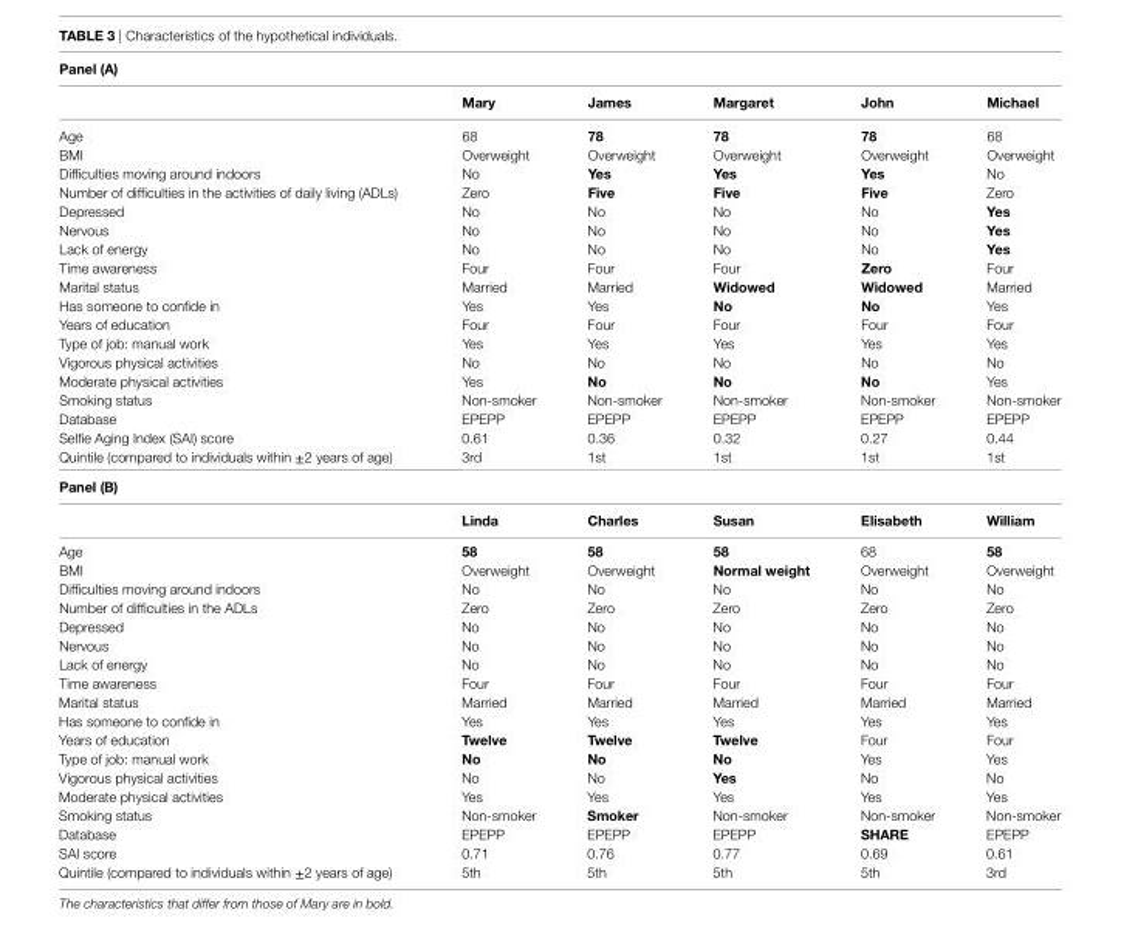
<table><thead><tr><td colspan="6">Panel (a)</td></tr><tr><td></td><td>Mary</td><td>James</td><td>Margaret</td><td>John</td><td>Michael</td></tr></thead><tbody><tr><td>Age</td><td>68</td><td>78</td><td>78</td><td>78</td><td>68</td></tr><tr><td>BMI</td><td>Overweight</td><td>Overweight</td><td>Overweight</td><td>Overweight</td><td>Overweight</td></tr><tr><td>Difficulties moving around indoors</td><td>No</td><td>Yes</td><td>Yes</td><td>Yes</td><td>No</td></tr><tr><td>Number of difficulties in the activities of daily living (ADLs)</td><td>Zero</td><td>Five</td><td>Five</td><td>Five</td><td>Zero</td></tr><tr><td>Depressed</td><td>No</td><td>No</td><td>No</td><td>No</td><td>Yes</td></tr><tr><td>Nervous</td><td>No</td><td>No</td><td>No</td><td>No</td><td>Yes</td></tr><tr><td>Lack of energy</td><td>No</td><td>No</td><td>No</td><td>No</td><td>Yes</td></tr><tr><td>Time awareness</td><td>Four</td><td>Four</td><td>Four</td><td>Zero</td><td>Four</td></tr><tr><td>Marital status</td><td>Married</td><td>Married</td><td>Widowed</td><td>Widowed</td><td>Married</td></tr><tr><td>Has someone to confide in</td><td>Yes</td><td>Yes</td><td>no</td><td>no</td><td>Yes</td></tr><tr><td>Years of education</td><td>Four</td><td>Four</td><td>Four</td><td>Four</td><td>Four</td></tr><tr><td>Type of job: manual work</td><td>Yes</td><td>Yes</td><td>Yes</td><td>Yes</td><td>Yes</td></tr><tr><td>Vigorous physical activities</td><td>No</td><td>No</td><td>No</td><td>No</td><td>No</td></tr><tr><td>Moderate physical activities</td><td>Yes</td><td>no</td><td>no</td><td>no</td><td>Yes</td></tr><tr><td>Smoking status</td><td>Non-smoker</td><td>Non-smoker</td><td>Non-smoker</td><td>Non-smoker</td><td>Non-smoker</td></tr><tr><td>Database</td><td>EPEPP</td><td>EPEPP</td><td>EPEPP</td><td>EPEPP</td><td>EPEPP</td></tr><tr><td>Selfie Aging Index (SAI) score</td><td>0.61</td><td>0.36</td><td>0.32</td><td>0.27</td><td>0.44</td></tr><tr><td>Quintile (compared to individuals within ±2 years of age)</td><td>3rd</td><td>1st</td><td>1st</td><td>1st</td><td>1st</td></tr><tr><td colspan="6">Panel (b)</td></tr><tr><td></td><td>linda</td><td>charles</td><td>susan</td><td>elisabeth</td><td>William</td></tr><tr><td>Age</td><td>58</td><td>58</td><td>58</td><td>68</td><td>58</td></tr><tr><td>BMI</td><td>Overweight</td><td>Overweight</td><td>normal weight</td><td>Overweight</td><td>Overweight</td></tr><tr><td>Difficulties moving around indoors</td><td>No</td><td>No</td><td>No</td><td>No</td><td>No</td></tr><tr><td>Number of difficulties in the ADLs</td><td>Zero</td><td>Zero</td><td>Zero</td><td>Zero</td><td>Zero</td></tr><tr><td>Depressed</td><td>No</td><td>No</td><td>No</td><td>No</td><td>No</td></tr><tr><td>Nervous</td><td>No</td><td>No</td><td>No</td><td>No</td><td>No</td></tr><tr><td>Lack of energy</td><td>No</td><td>No</td><td>No</td><td>No</td><td>No</td></tr><tr><td>Time awareness</td><td>Four</td><td>Four</td><td>Four</td><td>Four</td><td>Four</td></tr><tr><td>Marital status</td><td>Married</td><td>Married</td><td>Married</td><td>Married</td><td>Married</td></tr><tr><td>Has someone to confide in</td><td>Yes</td><td>Yes</td><td>Yes</td><td>Yes</td><td>Yes</td></tr><tr><td>Years of education</td><td>Twelve</td><td>Twelve</td><td>Twelve</td><td>Four</td><td>Four</td></tr><tr><td>Type of job: manual work</td><td>no</td><td>no</td><td>no</td><td>Yes</td><td>Yes</td></tr><tr><td>Vigorous physical activities</td><td>No</td><td>No</td><td>Yes</td><td>No</td><td>No</td></tr><tr><td>Moderate physical activities</td><td>Yes</td><td>Yes</td><td>Yes</td><td>Yes</td><td>Yes</td></tr><tr><td>Smoking status</td><td>Non-smoker</td><td>smoker</td><td>Non-smoker</td><td>Non-smoker</td><td>Non-smoker</td></tr><tr><td>Database</td><td>EPEPP</td><td>EPEPP</td><td>EPEPP</td><td>share</td><td>EPEPP</td></tr><tr><td>SAI score</td><td>0.71</td><td>0.76</td><td>0.77</td><td>0.69</td><td>0.61</td></tr><tr><td>Quintile (compared to individuals within ±2 years of age)</td><td>5th</td><td>5th</td><td>5th</td><td>5th</td><td>3rd</td></tr></tbody></table>